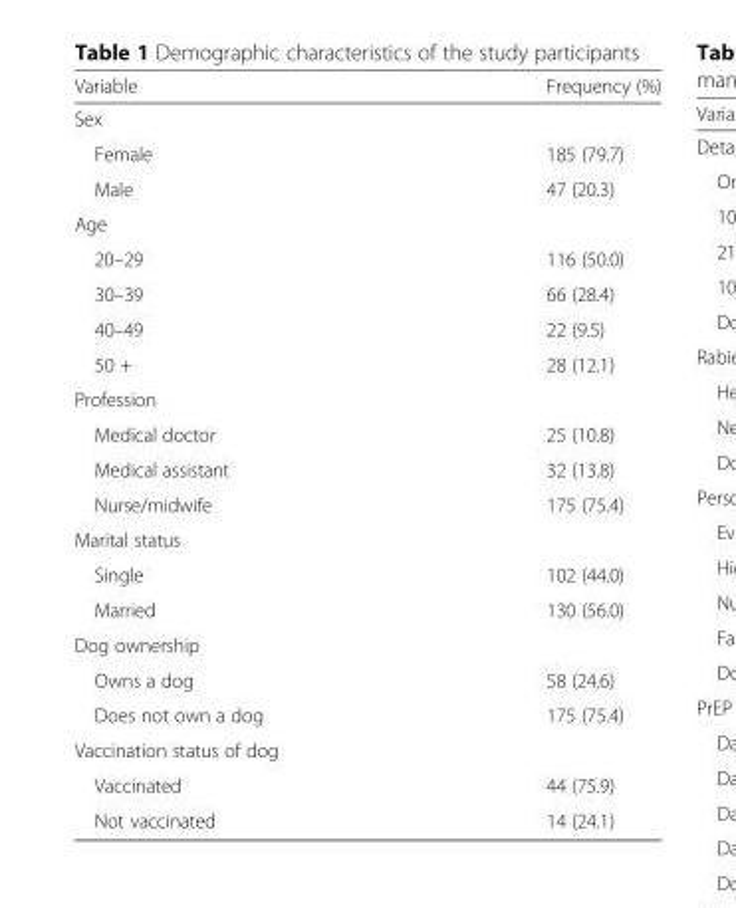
<table><thead><tr><td>Variable</td><td>Frequency (%)</td></tr></thead><tbody><tr><td colspan="2">Sex</td></tr><tr><td>Female</td><td>185 (79.7)</td></tr><tr><td>Male</td><td>47 (20.3)</td></tr><tr><td colspan="2">Age</td></tr><tr><td>20–29</td><td>116 (50.0)</td></tr><tr><td>30–39</td><td>66 (28.4)</td></tr><tr><td>40–49</td><td>22 (9.5)</td></tr><tr><td>50 +</td><td>28 (12.1)</td></tr><tr><td colspan="2">Profession</td></tr><tr><td>Medical doctor</td><td>25 (10.8)</td></tr><tr><td>Medical assistant</td><td>32 (13.8)</td></tr><tr><td>Nurse/midwife</td><td>175 (75.4)</td></tr><tr><td colspan="2">Marital status</td></tr><tr><td>Single</td><td>102 (44.0)</td></tr><tr><td>Married</td><td>130 (56.0)</td></tr><tr><td colspan="2">Dog ownership</td></tr><tr><td>Owns a dog</td><td>58 (24.6)</td></tr><tr><td>Does not own a dog</td><td>175 (75.4)</td></tr><tr><td colspan="2">Vaccination status of dog</td></tr><tr><td>Vaccinated</td><td>44 (75.9)</td></tr><tr><td>Not vaccinated</td><td>14 (24.1)</td></tr></tbody></table>